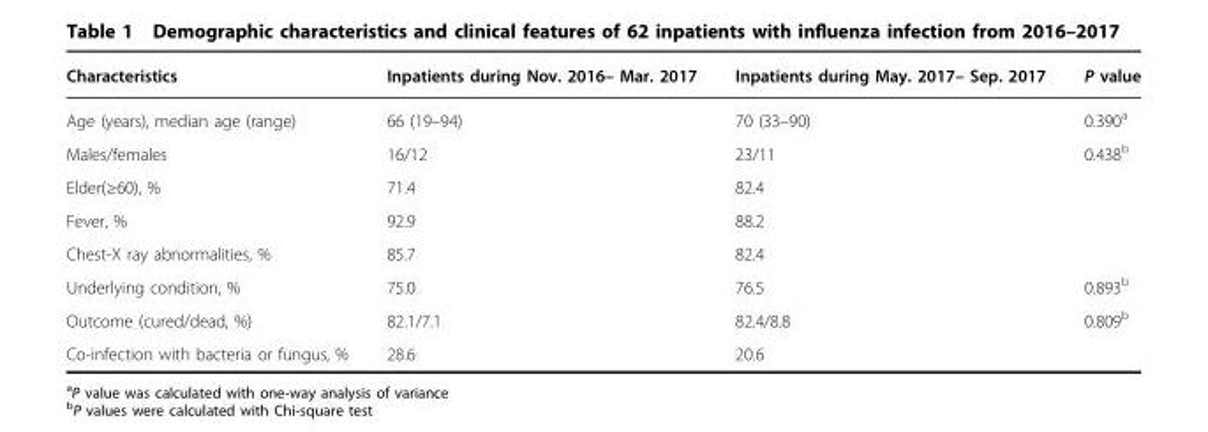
<table><thead><tr><td>Characteristics</td><td>Inpatients during Nov. 2016– Mar. 2017</td><td>Inpatients during May. 2017– Sep. 2017</td><td>P value</td></tr></thead><tbody><tr><td>Age (years), median age (range)</td><td>66 (19–94)</td><td>70 (33–90)</td><td>0.390<sup>a</sup></td></tr><tr><td>Males/females</td><td>16/12</td><td>23/11</td><td>0.438<sup>b</sup></td></tr><tr><td>Elder(≥60), %</td><td>71.4</td><td>82.4</td><td></td></tr><tr><td>Fever, %</td><td>92.9</td><td>88.2</td><td></td></tr><tr><td>Chest-X ray abnormalities, %</td><td>85.7</td><td>82.4</td><td></td></tr><tr><td>Underlying condition, %</td><td>75.0</td><td>76.5</td><td>0.893<sup>b</sup></td></tr><tr><td>Outcome (cured/dead, %)</td><td>82.1/7.1</td><td>82.4/8.8</td><td>0.809<sup>b</sup></td></tr><tr><td>Co-infection with bacteria or fungus, %</td><td>28.6</td><td>20.6</td><td></td></tr></tbody></table>